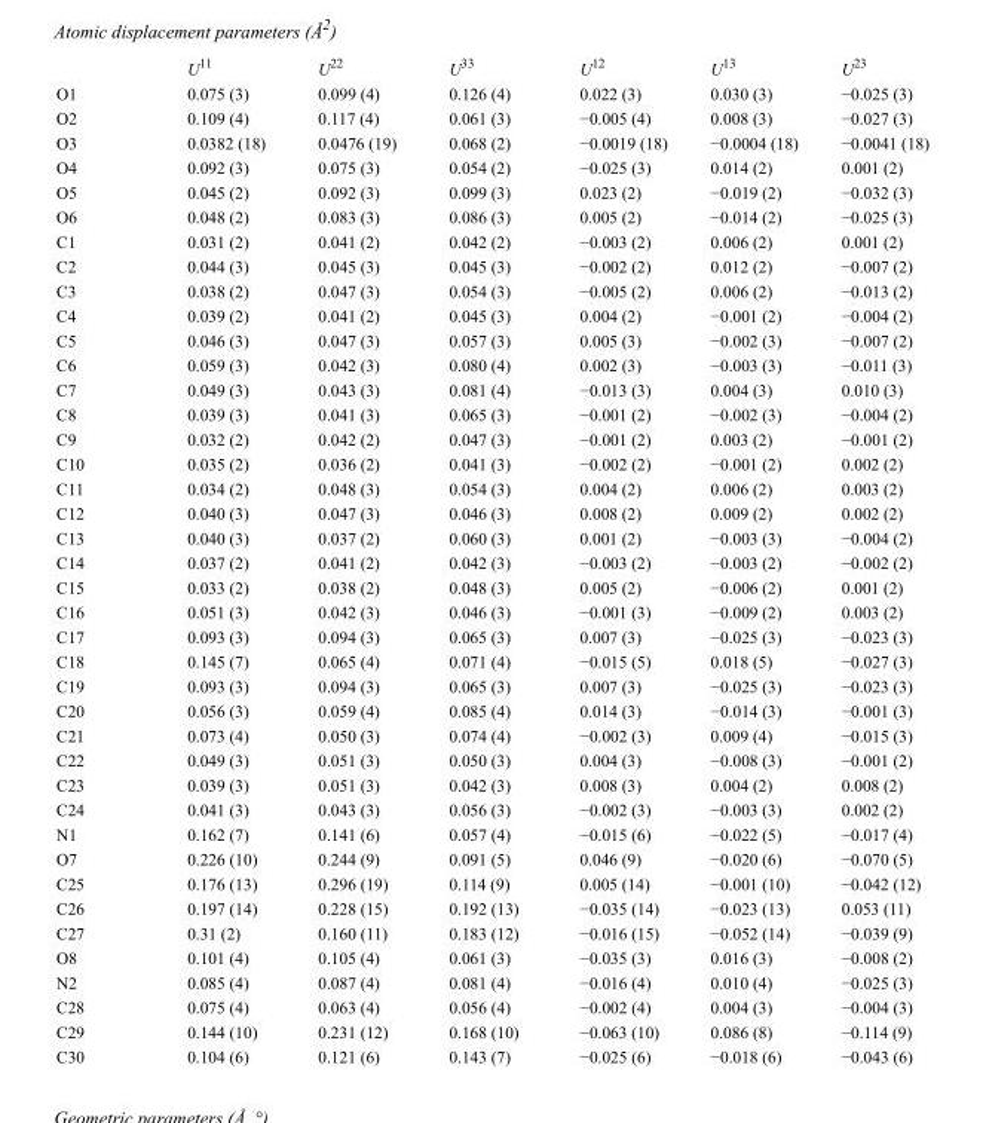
<table><thead><tr><td></td><td>U<sup>11</sup></td><td>U<sup>22</sup></td><td>U<sup>33</sup></td><td>U<sup>12</sup></td><td>U<sup>13</sup></td><td>U<sup>23</sup></td></tr></thead><tbody><tr><td>O1</td><td>0.075 (3)</td><td>0.099 (4)</td><td>0.126 (4)</td><td>0.022 (3)</td><td>0.030 (3)</td><td>−0.025 (3)</td></tr><tr><td>O2</td><td>0.109 (4)</td><td>0.117 (4)</td><td>0.061 (3)</td><td>−0.005 (4)</td><td>0.008 (3)</td><td>−0.027 (3)</td></tr><tr><td>O3</td><td>0.0382 (18)</td><td>0.0476 (19)</td><td>0.068 (2)</td><td>−0.0019 (18)</td><td>−0.0004 (18)</td><td>−0.0041 (18)</td></tr><tr><td>O4</td><td>0.092 (3)</td><td>0.075 (3)</td><td>0.054 (2)</td><td>−0.025 (3)</td><td>0.014 (2)</td><td>0.001 (2)</td></tr><tr><td>O5</td><td>0.045 (2)</td><td>0.092 (3)</td><td>0.099 (3)</td><td>0.023 (2)</td><td>−0.019 (2)</td><td>−0.032 (3)</td></tr><tr><td>O6</td><td>0.048 (2)</td><td>0.083 (3)</td><td>0.086 (3)</td><td>0.005 (2)</td><td>−0.014 (2)</td><td>−0.025 (3)</td></tr><tr><td>C1</td><td>0.031 (2)</td><td>0.041 (2)</td><td>0.042 (2)</td><td>−0.003 (2)</td><td>0.006 (2)</td><td>0.001 (2)</td></tr><tr><td>C2</td><td>0.044 (3)</td><td>0.045 (3)</td><td>0.045 (3)</td><td>−0.002 (2)</td><td>0.012 (2)</td><td>−0.007 (2)</td></tr><tr><td>C3</td><td>0.038 (2)</td><td>0.047 (3)</td><td>0.054 (3)</td><td>−0.005 (2)</td><td>0.006 (2)</td><td>−0.013 (2)</td></tr><tr><td>C4</td><td>0.039 (2)</td><td>0.041 (2)</td><td>0.045 (3)</td><td>0.004 (2)</td><td>−0.001 (2)</td><td>−0.004 (2)</td></tr><tr><td>C5</td><td>0.046 (3)</td><td>0.047 (3)</td><td>0.057 (3)</td><td>0.005 (3)</td><td>−0.002 (3)</td><td>−0.007 (2)</td></tr><tr><td>C6</td><td>0.059 (3)</td><td>0.042 (3)</td><td>0.080 (4)</td><td>0.002 (3)</td><td>−0.003 (3)</td><td>−0.011 (3)</td></tr><tr><td>C7</td><td>0.049 (3)</td><td>0.043 (3)</td><td>0.081 (4)</td><td>−0.013 (3)</td><td>0.004 (3)</td><td>0.010 (3)</td></tr><tr><td>C8</td><td>0.039 (3)</td><td>0.041 (3)</td><td>0.065 (3)</td><td>−0.001 (2)</td><td>−0.002 (3)</td><td>−0.004 (2)</td></tr><tr><td>C9</td><td>0.032 (2)</td><td>0.042 (2)</td><td>0.047 (3)</td><td>−0.001 (2)</td><td>0.003 (2)</td><td>−0.001 (2)</td></tr><tr><td>C10</td><td>0.035 (2)</td><td>0.036 (2)</td><td>0.041 (3)</td><td>−0.002 (2)</td><td>−0.001 (2)</td><td>0.002 (2)</td></tr><tr><td>C11</td><td>0.034 (2)</td><td>0.048 (3)</td><td>0.054 (3)</td><td>0.004 (2)</td><td>0.006 (2)</td><td>0.003 (2)</td></tr><tr><td>C12</td><td>0.040 (3)</td><td>0.047 (3)</td><td>0.046 (3)</td><td>0.008 (2)</td><td>0.009 (2)</td><td>0.002 (2)</td></tr><tr><td>C13</td><td>0.040 (3)</td><td>0.037 (2)</td><td>0.060 (3)</td><td>0.001 (2)</td><td>−0.003 (3)</td><td>−0.004 (2)</td></tr><tr><td>C14</td><td>0.037 (2)</td><td>0.041 (2)</td><td>0.042 (3)</td><td>−0.003 (2)</td><td>−0.003 (2)</td><td>−0.002 (2)</td></tr><tr><td>C15</td><td>0.033 (2)</td><td>0.038 (2)</td><td>0.048 (3)</td><td>0.005 (2)</td><td>−0.006 (2)</td><td>0.001 (2)</td></tr><tr><td>C16</td><td>0.051 (3)</td><td>0.042 (3)</td><td>0.046 (3)</td><td>−0.001 (3)</td><td>−0.009 (2)</td><td>0.003 (2)</td></tr><tr><td>C17</td><td>0.093 (3)</td><td>0.094 (3)</td><td>0.065 (3)</td><td>0.007 (3)</td><td>−0.025 (3)</td><td>−0.023 (3)</td></tr><tr><td>C18</td><td>0.145 (7)</td><td>0.065 (4)</td><td>0.071 (4)</td><td>−0.015 (5)</td><td>0.018 (5)</td><td>−0.027 (3)</td></tr><tr><td>C19</td><td>0.093 (3)</td><td>0.094 (3)</td><td>0.065 (3)</td><td>0.007 (3)</td><td>−0.025 (3)</td><td>−0.023 (3)</td></tr><tr><td>C20</td><td>0.056 (3)</td><td>0.059 (4)</td><td>0.085 (4)</td><td>0.014 (3)</td><td>−0.014 (3)</td><td>−0.001 (3)</td></tr><tr><td>C21</td><td>0.073 (4)</td><td>0.050 (3)</td><td>0.074 (4)</td><td>−0.002 (3)</td><td>0.009 (4)</td><td>−0.015 (3)</td></tr><tr><td>C22</td><td>0.049 (3)</td><td>0.051 (3)</td><td>0.050 (3)</td><td>0.004 (3)</td><td>−0.008 (3)</td><td>−0.001 (2)</td></tr><tr><td>C23</td><td>0.039 (3)</td><td>0.051 (3)</td><td>0.042 (3)</td><td>0.008 (3)</td><td>0.004 (2)</td><td>0.008 (2)</td></tr><tr><td>C24</td><td>0.041 (3)</td><td>0.043 (3)</td><td>0.056 (3)</td><td>−0.002 (3)</td><td>−0.003 (3)</td><td>0.002 (2)</td></tr><tr><td>N1</td><td>0.162 (7)</td><td>0.141 (6)</td><td>0.057 (4)</td><td>−0.015 (6)</td><td>−0.022 (5)</td><td>−0.017 (4)</td></tr><tr><td>O7</td><td>0.226 (10)</td><td>0.244 (9)</td><td>0.091 (5)</td><td>0.046 (9)</td><td>−0.020 (6)</td><td>−0.070 (5)</td></tr><tr><td>C25</td><td>0.176 (13)</td><td>0.296 (19)</td><td>0.114 (9)</td><td>0.005 (14)</td><td>−0.001 (10)</td><td>−0.042 (12)</td></tr><tr><td>C26</td><td>0.197 (14)</td><td>0.228 (15)</td><td>0.192 (13)</td><td>−0.035 (14)</td><td>−0.023 (13)</td><td>0.053 (11)</td></tr><tr><td>C27</td><td>0.31 (2)</td><td>0.160 (11)</td><td>0.183 (12)</td><td>−0.016 (15)</td><td>−0.052 (14)</td><td>−0.039 (9)</td></tr><tr><td>O8</td><td>0.101 (4)</td><td>0.105 (4)</td><td>0.061 (3)</td><td>−0.035 (3)</td><td>0.016 (3)</td><td>−0.008 (2)</td></tr><tr><td>N2</td><td>0.085 (4)</td><td>0.087 (4)</td><td>0.081 (4)</td><td>−0.016 (4)</td><td>0.010 (4)</td><td>−0.025 (3)</td></tr><tr><td>C28</td><td>0.075 (4)</td><td>0.063 (4)</td><td>0.056 (4)</td><td>−0.002 (4)</td><td>0.004 (3)</td><td>−0.004 (3)</td></tr><tr><td>C29</td><td>0.144 (10)</td><td>0.231 (12)</td><td>0.168 (10)</td><td>−0.063 (10)</td><td>0.086 (8)</td><td>−0.114 (9)</td></tr><tr><td>C30</td><td>0.104 (6)</td><td>0.121 (6)</td><td>0.143 (7)</td><td>−0.025 (6)</td><td>−0.018 (6)</td><td>−0.043 (6)</td></tr></tbody></table>